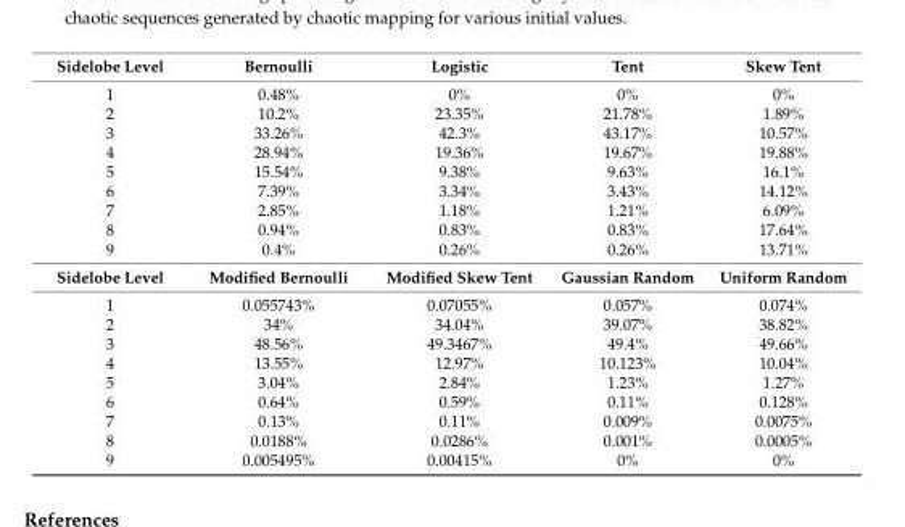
<table><tbody><tr><td>Sidelobe Level</td><td>Bernoulli</td><td>Logistic</td><td>Tent</td><td>Skew Tent</td></tr><tr><td>1</td><td>0.48%</td><td>0%</td><td>0%</td><td>0%</td></tr><tr><td>2</td><td>10.2%</td><td>23.35%</td><td>21.78%</td><td>1.89%</td></tr><tr><td>3</td><td>33.26%</td><td>42.3%</td><td>43.17%</td><td>10.57%</td></tr><tr><td>4</td><td>28.94%</td><td>19.36%</td><td>19.67%</td><td>19.88%</td></tr><tr><td>5</td><td>15.54%</td><td>9.38%</td><td>9.63%</td><td>16.1%</td></tr><tr><td>6</td><td>7.39%</td><td>3.34%</td><td>3.43%</td><td>14.12%</td></tr><tr><td>7</td><td>2.85%</td><td>1.18%</td><td>1.21%</td><td>6.09%</td></tr><tr><td>8</td><td>0.94%</td><td>0.83%</td><td>0.83%</td><td>17.64%</td></tr><tr><td>9</td><td>0.4%</td><td>0.26%</td><td>0.26%</td><td>13.71%</td></tr><tr><td>Sidelobe Level</td><td>Modified Bernoulli</td><td>Modified Skew Tent</td><td>Gaussian Random</td><td>Uniform Random</td></tr><tr><td>1</td><td>0.055743%</td><td>0.07055%</td><td>0.057%</td><td>0.074%</td></tr><tr><td>2</td><td>34%</td><td>34.04%</td><td>39.07%</td><td>38.82%</td></tr><tr><td>3</td><td>48.56%</td><td>49.3467%</td><td>49.4%</td><td>49.66%</td></tr><tr><td>4</td><td>13.55%</td><td>12.97%</td><td>10.123%</td><td>10.04%</td></tr><tr><td>5</td><td>3.04%</td><td>2.84%</td><td>1.23%</td><td>1.27%</td></tr><tr><td>6</td><td>0.64%</td><td>0.59%</td><td>0.11%</td><td>0.128%</td></tr><tr><td>7</td><td>0.13%</td><td>0.11%</td><td>0.009%</td><td>0.0075%</td></tr><tr><td>8</td><td>0.0188%</td><td>0.0286%</td><td>0.001%</td><td>0.0005%</td></tr><tr><td>9</td><td>0.005495%</td><td>0.00415%</td><td>0%</td><td>0%</td></tr></tbody></table>